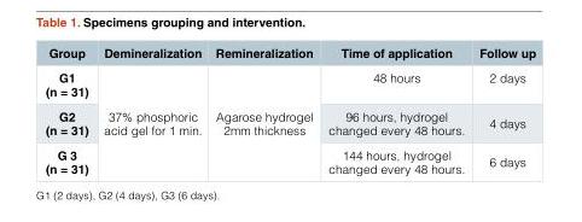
<table><thead><tr><td>Group</td><td>Demineralization</td><td>Remineralization</td><td>Time of application</td><td>Follow up</td></tr></thead><tbody><tr><td>G1 (n = 31)</td><td rowspan="3">37% phosphoric acid gel for 1 min.</td><td rowspan="3">Agarose hydrogel 2mm thickness</td><td>48 hours</td><td>2 days</td></tr><tr><td>G2 (n = 31)</td><td>96 hours, hydrogel changed every 48 hours.</td><td>4 days</td></tr><tr><td>G 3 (n = 31)</td><td>144 hours, hydrogel changed every 48 hours.</td><td>6 days</td></tr></tbody></table>